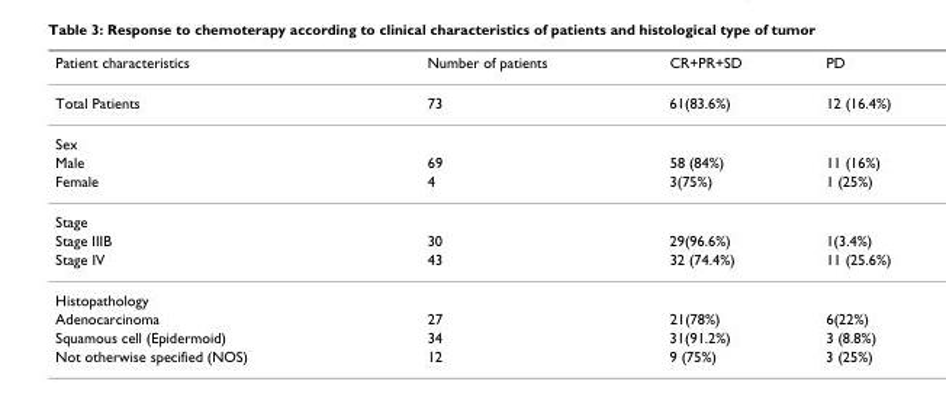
<table><thead><tr><td>Patient characteristics</td><td>Number of patients</td><td>CR+PR+SD</td><td>PD</td></tr></thead><tbody><tr><td>Total Patients</td><td>73</td><td>61(83.6%)</td><td>12 (16.4%)</td></tr><tr><td colspan="4">Sex</td></tr><tr><td>Male</td><td>69</td><td>58 (84%)</td><td>11 (16%)</td></tr><tr><td>Female</td><td>4</td><td>3(75%)</td><td>1 (25%)</td></tr><tr><td colspan="4">Stage</td></tr><tr><td>Stage IIIB</td><td>30</td><td>29(96.6%)</td><td>1(3.4%)</td></tr><tr><td>Stage IV</td><td>43</td><td>32 (74.4%)</td><td>11 (25.6%)</td></tr><tr><td colspan="4">Histopathology</td></tr><tr><td>Adenocarcinoma</td><td>27</td><td>21(78%)</td><td>6(22%)</td></tr><tr><td>Squamous cell (Epidermoid)</td><td>34</td><td>31(91.2%)</td><td>3 (8.8%)</td></tr><tr><td>Not otherwise specified (NOS)</td><td>12</td><td>9 (75%)</td><td>3 (25%)</td></tr></tbody></table>